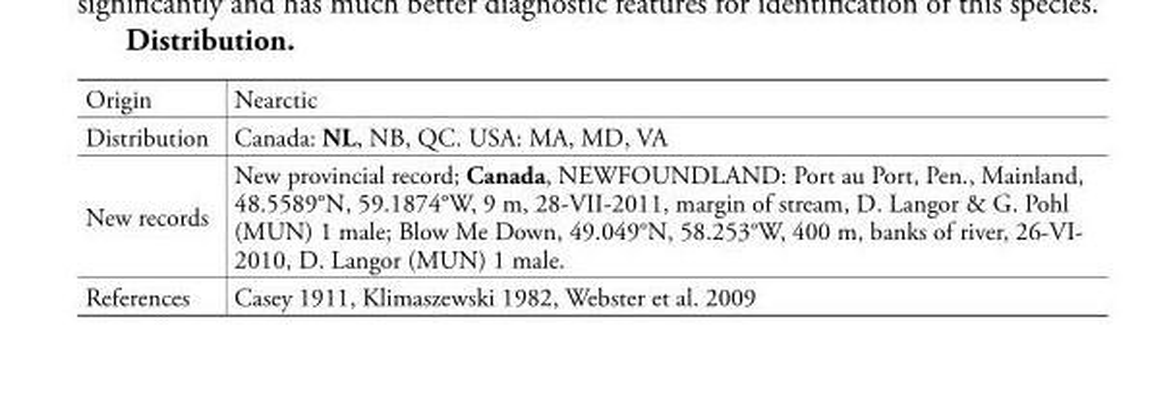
<table><tbody><tr><td>Origin</td><td>Nearctic</td></tr><tr><td>Distribution</td><td>Canada: NL, NB, QC. USA: MA, MD, VA</td></tr><tr><td>New records</td><td>New provincial record; Canada, NEWFOUNDLAND: Port au Port, Pen., Mainland, 48.5589°N, 59.1874°W, 9 m, 28-VII-2011, margin of stream, D. Langor &amp; G. Pohl (MUN) 1 male; Blow Me Down, 49.049°N, 58.253°W, 400 m, banks of river, 26-VI- 2010, D. Langor (MUN) 1 male.</td></tr><tr><td>References</td><td>Casey 1911, Klimaszewski 1982, Webster et al. 2009</td></tr></tbody></table>